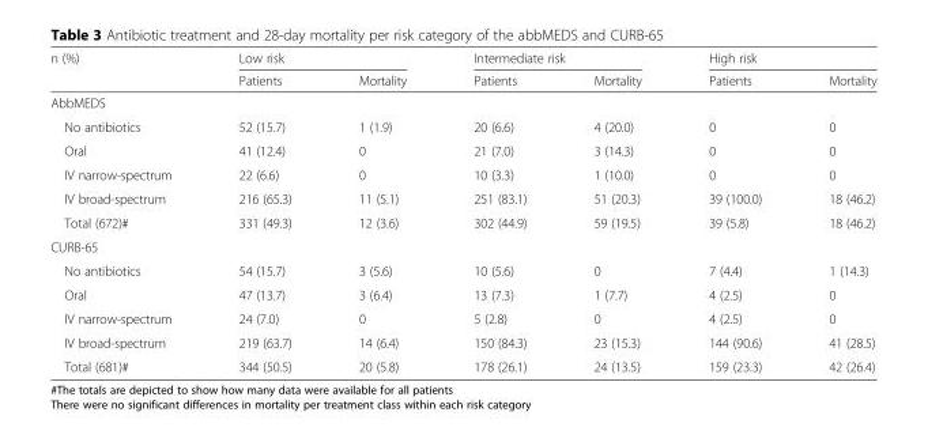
<table><thead><tr><td rowspan="2">n (%)</td><td colspan="2">Low risk</td><td colspan="2">Intermediate risk</td><td colspan="2">High risk</td></tr><tr><td>Patients</td><td>Mortality</td><td>Patients</td><td>Mortality</td><td>Patients</td><td>Mortality</td></tr></thead><tbody><tr><td colspan="7">AbbMEDS</td></tr><tr><td>No antibiotics</td><td>52 (15.7)</td><td>1 (1.9)</td><td>20 (6.6)</td><td>4 (20.0)</td><td>0</td><td>0</td></tr><tr><td>Oral</td><td>41 (12.4)</td><td>0</td><td>21 (7.0)</td><td>3 (14.3)</td><td>0</td><td>0</td></tr><tr><td>IV narrow-spectrum</td><td>22 (6.6)</td><td>0</td><td>10 (3.3)</td><td>1 (10.0)</td><td>0</td><td>0</td></tr><tr><td>IV broad-spectrum</td><td>216 (65.3)</td><td>11 (5.1)</td><td>251 (83.1)</td><td>51 (20.3)</td><td>39 (100.0)</td><td>18 (46.2)</td></tr><tr><td>Total (672)#</td><td>331 (49.3)</td><td>12 (3.6)</td><td>302 (44.9)</td><td>59 (19.5)</td><td>39 (5.8)</td><td>18 (46.2)</td></tr><tr><td colspan="7">CURB-65</td></tr><tr><td>No antibiotics</td><td>54 (15.7)</td><td>3 (5.6)</td><td>10 (5.6)</td><td>0</td><td>7 (4.4)</td><td>1 (14.3)</td></tr><tr><td>Oral</td><td>47 (13.7)</td><td>3 (6.4)</td><td>13 (7.3)</td><td>1 (7.7)</td><td>4 (2.5)</td><td>0</td></tr><tr><td>IV narrow-spectrum</td><td>24 (7.0)</td><td>0</td><td>5 (2.8)</td><td>0</td><td>4 (2.5)</td><td>0</td></tr><tr><td>IV broad-spectrum</td><td>219 (63.7)</td><td>14 (6.4)</td><td>150 (84.3)</td><td>23 (15.3)</td><td>144 (90.6)</td><td>41 (28.5)</td></tr><tr><td>Total (681)#</td><td>344 (50.5)</td><td>20 (5.8)</td><td>178 (26.1)</td><td>24 (13.5)</td><td>159 (23.3)</td><td>42 (26.4)</td></tr></tbody></table>